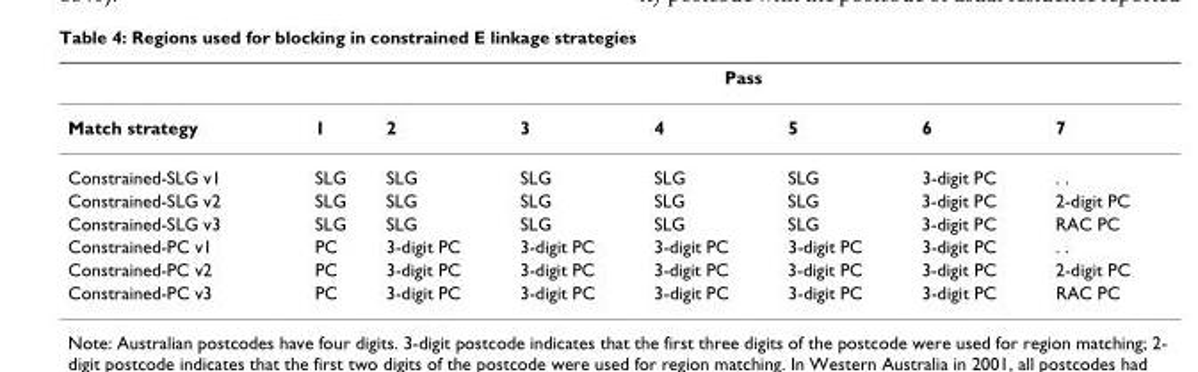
<table><thead><tr><td rowspan="2">Match strategy</td><td colspan="7">Pass</td></tr><tr><td>1</td><td>2</td><td>3</td><td>4</td><td>5</td><td>6</td><td>7</td></tr></thead><tbody><tr><td>Constrained-SLG v1</td><td>SLG</td><td>SLG</td><td>SLG</td><td>SLG</td><td>SLG</td><td>3-digit PC</td><td>. .</td></tr><tr><td>Constrained-SLG v2</td><td>SLG</td><td>SLG</td><td>SLG</td><td>SLG</td><td>SLG</td><td>3-digit PC</td><td>2-digit PC</td></tr><tr><td>Constrained-SLG v3</td><td>SLG</td><td>SLG</td><td>SLG</td><td>SLG</td><td>SLG</td><td>3-digit PC</td><td>RAC PC</td></tr><tr><td>Constrained-PC v1</td><td>PC</td><td>3-digit PC</td><td>3-digit PC</td><td>3-digit PC</td><td>3-digit PC</td><td>3-digit PC</td><td>. .</td></tr><tr><td>Constrained-PC v2</td><td>PC</td><td>3-digit PC</td><td>3-digit PC</td><td>3-digit PC</td><td>3-digit PC</td><td>3-digit PC</td><td>2-digit PC</td></tr><tr><td>Constrained-PC v3</td><td>PC</td><td>3-digit PC</td><td>3-digit PC</td><td>3-digit PC</td><td>3-digit PC</td><td>3-digit PC</td><td>RAC PC</td></tr></tbody></table>